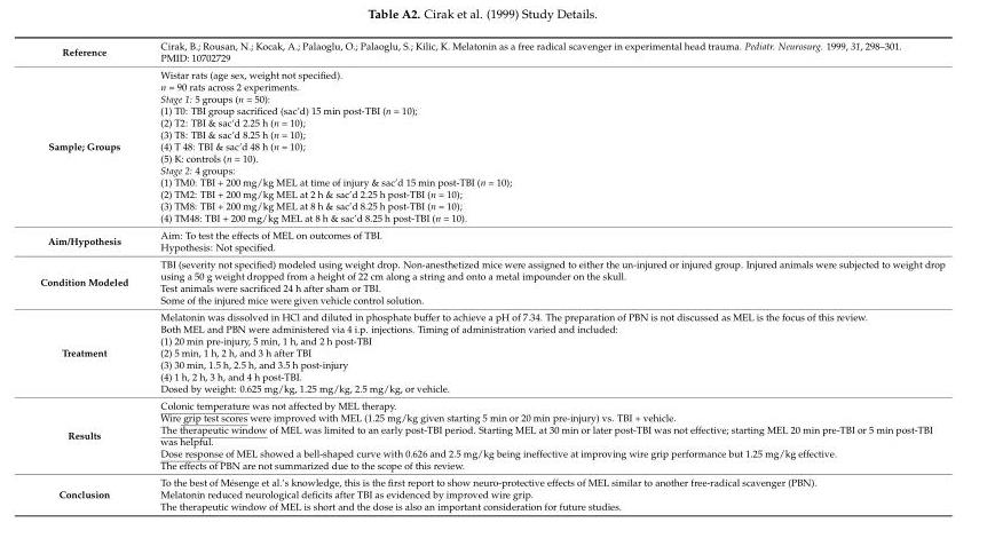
<table><tbody><tr><td>Reference</td><td>Cirak, B.; Rousan, N.; Kocak, A.; Palaoglu, O.; Palaoglu, S.; Kilic, K. Melatonin as a free radical scavenger in experimental head trauma. Pediatr. Neurosurg. 1999, 31, 298–301. PMID: 10702729</td></tr><tr><td>Sample; Groups</td><td>Wistar rats (age sex, weight not specified). n = 90 rats across 2 experiments. Stage 1: 5 groups (n = 50): (1) T0: TBI group sacrificed (sac’d) 15 min post-TBI (n = 10); (2) T2: TBI &amp; sac’d 2.25 h (n = 10); (3) T8: TBI &amp; sac’d 8.25 h (n = 10); (4) T 48: TBI &amp; sac’d 48 h (n = 10); (5) K: controls (n = 10). Stage 2: 4 groups: (1) TM0: TBI + 200 mg/kg MEL at time of injury &amp; sac’d 15 min post-TBI (n = 10); (2) TM2: TBI + 200 mg/kg MEL at 2 h &amp; sac’d 2.25 h post-TBI (n = 10); (3) TM8: TBI + 200 mg/kg MEL at 8 h &amp; sac’d 8.25 h post-TBI (n = 10); (4) TM48: TBI + 200 mg/kg MEL at 8 h &amp; sac’d 8.25 h post-TBI (n = 10).</td></tr><tr><td>Aim/Hypothesis</td><td>Aim: To test the effects of MEL on outcomes of TBI. Hypothesis: Not specified.</td></tr><tr><td>Condition Modeled</td><td>TBI (severity not specified) modeled using weight drop. Non-anesthetized mice were assigned to either the un-injured or injured group. Injured animals were subjected to weight drop using a 50 g weight dropped from a height of 22 cm along a string and onto a metal impounder on the skull. Test animals were sacrificed 24 h after sham or TBI. Some of the injured mice were given vehicle control solution.</td></tr><tr><td>Treatment</td><td>Melatonin was dissolved in HCl and diluted in phosphate buffer to achieve a pH of 7.34. The preparation of PBN is not discussed as MEL is the focus of this review. Both MEL and PBN were administered via 4 i.p. injections. Timing of administration varied and included: (1) 20 min pre-injury, 5 min, 1 h, and 2 h post-TBI (2) 5 min, 1 h, 2 h, and 3 h after TBI (3) 30 min, 1.5 h, 2.5 h, and 3.5 h post-injury (4) 1 h, 2 h, 3 h, and 4 h post-TBI. Dosed by weight: 0.625 mg/kg, 1.25 mg/kg, 2.5 mg/kg, or vehicle.</td></tr><tr><td>Results</td><td>Colonic temperature was not affected by MEL therapy. Wire grip test scores were improved with MEL (1.25 mg/kg given starting 5 min or 20 min pre-injury) vs. TBI + vehicle. The therapeutic window of MEL was limited to an early post-TBI period. Starting MEL at 30 min or later post-TBI was not effective; starting MEL 20 min pre-TBI or 5 min post-TBI was helpful. Dose response of MEL showed a bell-shaped curve with 0.626 and 2.5 mg/kg being ineffective at improving wire grip performance but 1.25 mg/kg effective. The effects of PBN are not summarized due to the scope of this review.</td></tr><tr><td>Conclusion</td><td>To the best of Mésenge et al.’s knowledge, this is the first report to show neuro-protective effects of MEL similar to another free-radical scavenger (PBN). Melatonin reduced neurological deficits after TBI as evidenced by improved wire grip. The therapeutic window of MEL is short and the dose is also an important consideration for future studies.</td></tr></tbody></table>